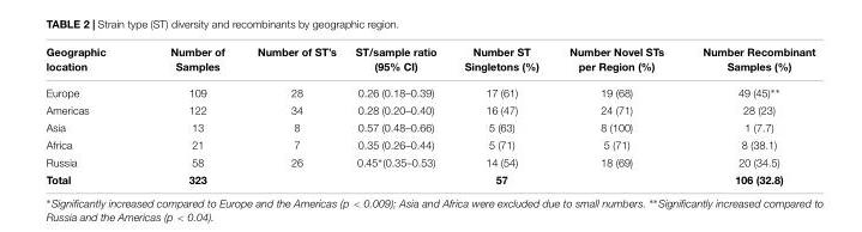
<table><thead><tr><td>Geographic location</td><td>Number of Samples</td><td>Number of ST’s</td><td>ST/sample ratio (95% CI)</td><td>Number ST Singletons (%)</td><td>Number Novel STs per Region (%)</td><td>Number Recombinant Samples (%)</td></tr></thead><tbody><tr><td>Europe</td><td>109</td><td>28</td><td>0.26 (0.18–0.39)</td><td>17 (61)</td><td>19 (68)</td><td>49 (45)∗∗</td></tr><tr><td>Americas</td><td>122</td><td>34</td><td>0.28 (0.20–0.40)</td><td>16 (47)</td><td>24 (71)</td><td>28 (23)</td></tr><tr><td>Asia</td><td>13</td><td>8</td><td>0.57 (0.48–0.66)</td><td>5 (63)</td><td>8 (100)</td><td>1 (7.7)</td></tr><tr><td>Africa</td><td>21</td><td>7</td><td>0.35 (0.26–0.44)</td><td>5 (71)</td><td>5 (71)</td><td>8 (38.1)</td></tr><tr><td>Russia</td><td>58</td><td>26</td><td>0.45∗(0.35–0.53)</td><td>14 (54)</td><td>18 (69)</td><td>20 (34.5)</td></tr><tr><td>Total</td><td>323</td><td></td><td></td><td>57</td><td></td><td>106 (32.8)</td></tr></tbody></table>